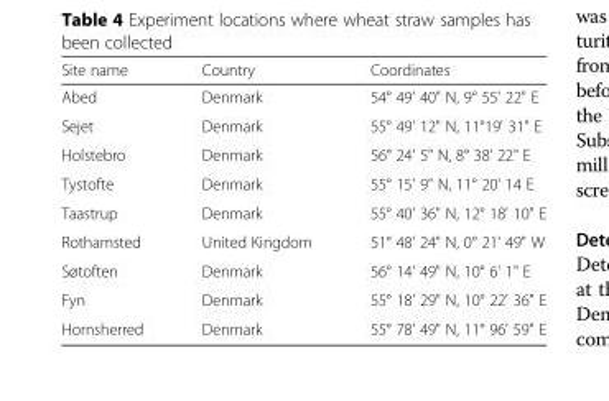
<table><thead><tr><td>Site name</td><td>Country</td><td>Coordinates</td></tr></thead><tbody><tr><td>Abed</td><td>Denmark</td><td>54° 49&#x27; 40&quot; N, 9° 55&#x27; 22&quot; E</td></tr><tr><td>Sejet</td><td>Denmark</td><td>55° 49&#x27; 12&quot; N, 11°19&#x27; 31&quot; E</td></tr><tr><td>Holstebro</td><td>Denmark</td><td>56° 24&#x27; 5&quot; N, 8° 38&#x27; 22&quot; E</td></tr><tr><td>Tystofte</td><td>Denmark</td><td>55° 15&#x27; 9&quot; N, 11° 20&#x27; 14 E</td></tr><tr><td>Taastrup</td><td>Denmark</td><td>55° 40&#x27; 36&quot; N, 12° 18&#x27; 10&quot; E</td></tr><tr><td>Rothamsted</td><td>United Kingdom</td><td>51° 48&#x27; 24&quot; N, 0° 21&#x27; 49&quot; W</td></tr><tr><td>Søtoften</td><td>Denmark</td><td>56° 14&#x27; 49&quot; N, 10° 6&#x27; 1&quot; E</td></tr><tr><td>Fyn</td><td>Denmark</td><td>55° 18&#x27; 29&quot; N, 10° 22&#x27; 36&quot; E</td></tr><tr><td>Hornsherred</td><td>Denmark</td><td>55° 78&#x27; 49&quot; N, 11° 96&#x27; 59&quot; E</td></tr></tbody></table>